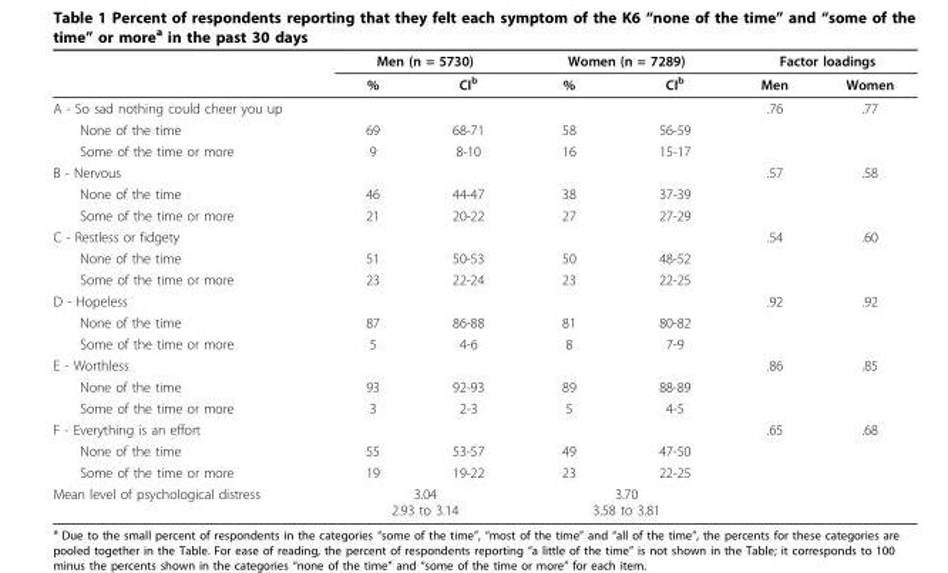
<table><thead><tr><td rowspan="2"></td><td colspan="2">Men (n = 5730)</td><td colspan="2">Women (n = 7289)</td><td colspan="2">Factor loadings</td></tr><tr><td>%</td><td>CI<sup>b</sup></td><td>%</td><td>CI<sup>b</sup></td><td>Men</td><td>Women</td></tr></thead><tbody><tr><td>A - So sad nothing could cheer you up</td><td></td><td></td><td></td><td></td><td>.76</td><td>.77</td></tr><tr><td>None of the time</td><td>69</td><td>68-71</td><td>58</td><td>56-59</td><td></td><td></td></tr><tr><td>Some of the time or more</td><td>9</td><td>8-10</td><td>16</td><td>15-17</td><td></td><td></td></tr><tr><td>B - Nervous</td><td></td><td></td><td></td><td></td><td>.57</td><td>.58</td></tr><tr><td>None of the time</td><td>46</td><td>44-47</td><td>38</td><td>37-39</td><td></td><td></td></tr><tr><td>Some of the time or more</td><td>21</td><td>20-22</td><td>27</td><td>27-29</td><td></td><td></td></tr><tr><td>C - Restless or fidgety</td><td></td><td></td><td></td><td></td><td>.54</td><td>.60</td></tr><tr><td>None of the time</td><td>51</td><td>50-53</td><td>50</td><td>48-52</td><td></td><td></td></tr><tr><td>Some of the time or more</td><td>23</td><td>22-24</td><td>23</td><td>22-25</td><td></td><td></td></tr><tr><td>D - Hopeless</td><td></td><td></td><td></td><td></td><td>.92</td><td>.92</td></tr><tr><td>None of the time</td><td>87</td><td>86-88</td><td>81</td><td>80-82</td><td></td><td></td></tr><tr><td>Some of the time or more</td><td>5</td><td>4-6</td><td>8</td><td>7-9</td><td></td><td></td></tr><tr><td>E - Worthless</td><td></td><td></td><td></td><td></td><td>.86</td><td>.85</td></tr><tr><td>None of the time</td><td>93</td><td>92-93</td><td>89</td><td>88-89</td><td></td><td></td></tr><tr><td>Some of the time or more</td><td>3</td><td>2-3</td><td>5</td><td>4-5</td><td></td><td></td></tr><tr><td>F - Everything is an effort</td><td></td><td></td><td></td><td></td><td>.65</td><td>.68</td></tr><tr><td>None of the time</td><td>55</td><td>53-57</td><td>49</td><td>47-50</td><td></td><td></td></tr><tr><td>Some of the time or more</td><td>19</td><td>19-22</td><td>23</td><td>22-25</td><td></td><td></td></tr><tr><td>Mean level of psychological distress</td><td colspan="2">3.04 2.93 to 3.14</td><td colspan="2">3.70 3.58 to 3.81</td><td></td><td></td></tr></tbody></table>